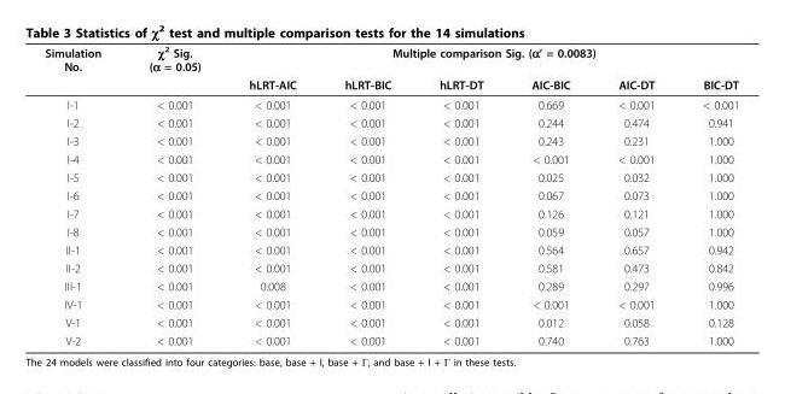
<table><thead><tr><td rowspan="2">Simulation No.</td><td rowspan="2">χ<sup>2</sup> Sig. (α = 0.05)</td><td colspan="6">Multiple comparison Sig. (α’ = 0.0083)</td></tr><tr><td>hLRT-AIC</td><td>hLRT-BIC</td><td>hLRT-DT</td><td>AIC-BIC</td><td>AIC-DT</td><td>BIC-DT</td></tr></thead><tbody><tr><td>I-1</td><td>&lt; 0.001</td><td>&lt; 0.001</td><td>&lt; 0.001</td><td>&lt; 0.001</td><td>0.669</td><td>&lt; 0.001</td><td>&lt; 0.001</td></tr><tr><td>I-2</td><td>&lt; 0.001</td><td>&lt; 0.001</td><td>&lt; 0.001</td><td>&lt; 0.001</td><td>0.244</td><td>0.474</td><td>0.941</td></tr><tr><td>I-3</td><td>&lt; 0.001</td><td>&lt; 0.001</td><td>&lt; 0.001</td><td>&lt; 0.001</td><td>0.243</td><td>0.231</td><td>1.000</td></tr><tr><td>I-4</td><td>&lt; 0.001</td><td>&lt; 0.001</td><td>&lt; 0.001</td><td>&lt; 0.001</td><td>&lt; 0.001</td><td>&lt; 0.001</td><td>1.000</td></tr><tr><td>I-5</td><td>&lt; 0.001</td><td>&lt; 0.001</td><td>&lt; 0.001</td><td>&lt; 0.001</td><td>0.025</td><td>0.032</td><td>1.000</td></tr><tr><td>I-6</td><td>&lt; 0.001</td><td>&lt; 0.001</td><td>&lt; 0.001</td><td>&lt; 0.001</td><td>0.067</td><td>0.073</td><td>1.000</td></tr><tr><td>I-7</td><td>&lt; 0.001</td><td>&lt; 0.001</td><td>&lt; 0.001</td><td>&lt; 0.001</td><td>0.126</td><td>0.121</td><td>1.000</td></tr><tr><td>I-8</td><td>&lt; 0.001</td><td>&lt; 0.001</td><td>&lt; 0.001</td><td>&lt; 0.001</td><td>0.059</td><td>0.057</td><td>1.000</td></tr><tr><td>II-1</td><td>&lt; 0.001</td><td>&lt; 0.001</td><td>&lt; 0.001</td><td>&lt; 0.001</td><td>0.564</td><td>0.657</td><td>0.942</td></tr><tr><td>II-2</td><td>&lt; 0.001</td><td>&lt; 0.001</td><td>&lt; 0.001</td><td>&lt; 0.001</td><td>0.581</td><td>0.473</td><td>0.842</td></tr><tr><td>III-1</td><td>&lt; 0.001</td><td>0.008</td><td>&lt; 0.001</td><td>&lt; 0.001</td><td>0.289</td><td>0.297</td><td>0.996</td></tr><tr><td>IV-1</td><td>&lt; 0.001</td><td>&lt; 0.001</td><td>&lt; 0.001</td><td>&lt; 0.001</td><td>&lt; 0.001</td><td>&lt; 0.001</td><td>1.000</td></tr><tr><td>V-1</td><td>&lt; 0.001</td><td>&lt; 0.001</td><td>&lt; 0.001</td><td>&lt; 0.001</td><td>0.012</td><td>0.058</td><td>0.128</td></tr><tr><td>V-2</td><td>&lt; 0.001</td><td>&lt; 0.001</td><td>&lt; 0.001</td><td>&lt; 0.001</td><td>0.740</td><td>0.763</td><td>1.000</td></tr></tbody></table>